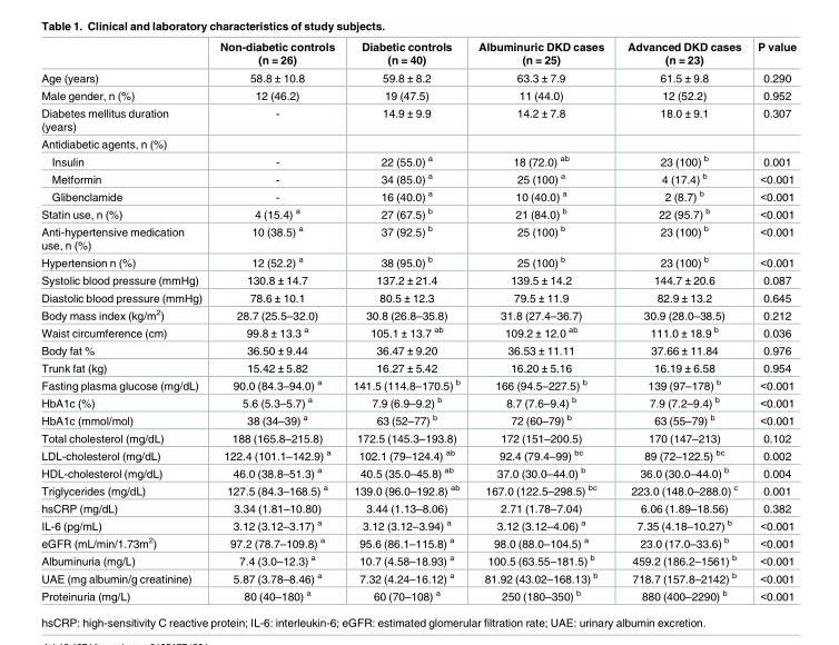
<table><thead><tr><td></td><td>Non-diabetic controls (n = 26)</td><td>Diabetic controls (n = 40)</td><td>Albuminuric DKD cases (n = 25)</td><td>Advanced DKD cases (n = 23)</td><td>P value</td></tr></thead><tbody><tr><td>Age (years)</td><td>58.8 ± 10.8</td><td>59.8 ± 8.2</td><td>63.3 ± 7.9</td><td>61.5 ± 9.8</td><td>0.290</td></tr><tr><td>Male gender, n (%)</td><td>12 (46.2)</td><td>19 (47.5)</td><td>11 (44.0)</td><td>12 (52.2)</td><td>0.952</td></tr><tr><td>Diabetes mellitus duration (years)</td><td>-</td><td>14.9 ± 9.9</td><td>14.2 ± 7.8</td><td>18.0 ± 9.1</td><td>0.307</td></tr><tr><td colspan="6">Antidiabetic agents, n (%)</td></tr><tr><td>Insulin</td><td>-</td><td>22 (55.0) <sup>a</sup></td><td>18 (72.0) <sup>ab</sup></td><td>23 (100) <sup>b</sup></td><td>0.001</td></tr><tr><td>Metformin</td><td>-</td><td>34 (85.0) <sup>a</sup></td><td>25 (100) <sup>a</sup></td><td>4 (17.4) <sup>b</sup></td><td>&lt;0.001</td></tr><tr><td>Glibenclamide</td><td>-</td><td>16 (40.0) <sup>a</sup></td><td>10 (40.0) <sup>a</sup></td><td>2 (8.7) <sup>b</sup></td><td>&lt;0.001</td></tr><tr><td>Statin use, n (%)</td><td>4 (15.4) <sup>a</sup></td><td>27 (67.5) <sup>b</sup></td><td>21 (84.0) <sup>b</sup></td><td>22 (95.7) <sup>b</sup></td><td>&lt;0.001</td></tr><tr><td>Anti-hypertensive medication use, n (%)</td><td>10 (38.5) <sup>a</sup></td><td>37 (92.5) <sup>b</sup></td><td>25 (100) <sup>b</sup></td><td>23 (100) <sup>b</sup></td><td>&lt;0.001</td></tr><tr><td>Hypertension n (%)</td><td>12 (52.2) <sup>a</sup></td><td>38 (95.0) <sup>b</sup></td><td>25 (100) <sup>b</sup></td><td>23 (100) <sup>b</sup></td><td>&lt;0.001</td></tr><tr><td>Systolic blood pressure (mmHg)</td><td>130.8 ± 14.7</td><td>137.2 ± 21.4</td><td>139.5 ± 14.2</td><td>144.7 ± 20.6</td><td>0.087</td></tr><tr><td>Diastolic blood pressure (mmHg)</td><td>78.6 ± 10.1</td><td>80.5 ± 12.3</td><td>79.5 ± 11.9</td><td>82.9 ± 13.2</td><td>0.645</td></tr><tr><td>Body mass index (kg/m<sup>2</sup>)</td><td>28.7 (25.5–32.0)</td><td>30.8 (26.8–35.8)</td><td>31.8 (27.4–36.7)</td><td>30.9 (28.0–38.5)</td><td>0.212</td></tr><tr><td>Waist circumference (cm)</td><td>99.8 ± 13.3 <sup>a</sup></td><td>105.1 ± 13.7 <sup>ab</sup></td><td>109.2 ± 12.0 <sup>ab</sup></td><td>111.0 ± 18.9 <sup>b</sup></td><td>0.036</td></tr><tr><td>Body fat %</td><td>36.50 ± 9.44</td><td>36.47 ± 9.20</td><td>36.53 ± 11.11</td><td>37.66 ± 11.84</td><td>0.976</td></tr><tr><td>Trunk fat (kg)</td><td>15.42 ± 5.82</td><td>16.27 ± 5.42</td><td>16.20 ± 5.16</td><td>16.19 ± 6.58</td><td>0.954</td></tr><tr><td>Fasting plasma glucose (mg/dL)</td><td>90.0 (84.3–94.0) <sup>a</sup></td><td>141.5 (114.8–170.5) <sup>b</sup></td><td>166 (94.5–227.5) <sup>b</sup></td><td>139 (97–178) <sup>b</sup></td><td>&lt;0.001</td></tr><tr><td>HbA1c (%)</td><td>5.6 (5.3–5.7) <sup>a</sup></td><td>7.9 (6.9–9.2) <sup>b</sup></td><td>8.7 (7.6–9.4) <sup>b</sup></td><td>7.9 (7.2–9.4) <sup>b</sup></td><td>&lt;0.001</td></tr><tr><td>HbA1c (mmol/mol)</td><td>38 (34–39) <sup>a</sup></td><td>63 (52–77) <sup>b</sup></td><td>72 (60–79) <sup>b</sup></td><td>63 (55–79) <sup>b</sup></td><td>&lt;0.001</td></tr><tr><td>Total cholesterol (mg/dL)</td><td>188 (165.8–215.8)</td><td>172.5 (145.3–193.8)</td><td>172 (151–200.5)</td><td>170 (147–213)</td><td>0.102</td></tr><tr><td>LDL-cholesterol (mg/dL)</td><td>122.4 (101.1–142.9) <sup>a</sup></td><td>102.1 (79–124.4) <sup>ab</sup></td><td>92.4 (79.4–99) <sup>bc</sup></td><td>89 (72–122.5) <sup>bc</sup></td><td>0.002</td></tr><tr><td>HDL-cholesterol (mg/dL)</td><td>46.0 (38.8–51.3) <sup>a</sup></td><td>40.5 (35.0–45.8) <sup>ab</sup></td><td>37.0 (30.0–44.0) <sup>b</sup></td><td>36.0 (30.0–44.0) <sup>b</sup></td><td>0.004</td></tr><tr><td>Triglycerides (mg/dL)</td><td>127.5 (84.3–168.5) <sup>a</sup></td><td>139.0 (96.0–192.8) <sup>ab</sup></td><td>167.0 (122.5–298.5) <sup>bc</sup></td><td>223.0 (148.0–288.0) <sup>c</sup></td><td>0.001</td></tr><tr><td>hsCRP (mg/dL)</td><td>3.34 (1.81–10.80)</td><td>3.44 (1.13–8.06)</td><td>2.71 (1.78–7.04)</td><td>6.06 (1.89–18.56)</td><td>0.382</td></tr><tr><td>IL-6 (pg/mL)</td><td>3.12 (3.12–3.17) <sup>a</sup></td><td>3.12 (3.12–3.94) <sup>a</sup></td><td>3.12 (3.12–4.06) <sup>a</sup></td><td>7.35 (4.18–10.27) <sup>b</sup></td><td>&lt;0.001</td></tr><tr><td>eGFR (mL/min/1.73m<sup>2</sup>)</td><td>97.2 (78.7–109.8) <sup>a</sup></td><td>95.6 (86.1–115.8) <sup>a</sup></td><td>98.0 (88.0–104.5) <sup>a</sup></td><td>23.0 (17.0–33.6) <sup>b</sup></td><td>&lt;0.001</td></tr><tr><td>Albuminuria (mg/L)</td><td>7.4 (3.0–12.3) <sup>a</sup></td><td>10.7 (4.58–18.93) <sup>a</sup></td><td>100.5 (63.55–181.5) <sup>b</sup></td><td>459.2 (186.2–1561) <sup>b</sup></td><td>&lt;0.001</td></tr><tr><td>UAE (mg albumin/g creatinine)</td><td>5.87 (3.78–8.46) <sup>a</sup></td><td>7.32 (4.24–16.12) <sup>a</sup></td><td>81.92 (43.02–168.13) <sup>b</sup></td><td>718.7 (157.8–2142) <sup>b</sup></td><td>&lt;0.001</td></tr><tr><td>Proteinuria (mg/L)</td><td>80 (40–180) <sup>a</sup></td><td>60 (70–108) <sup>a</sup></td><td>250 (180–350) <sup>b</sup></td><td>880 (400–2290) <sup>b</sup></td><td>&lt;0.001</td></tr></tbody></table>